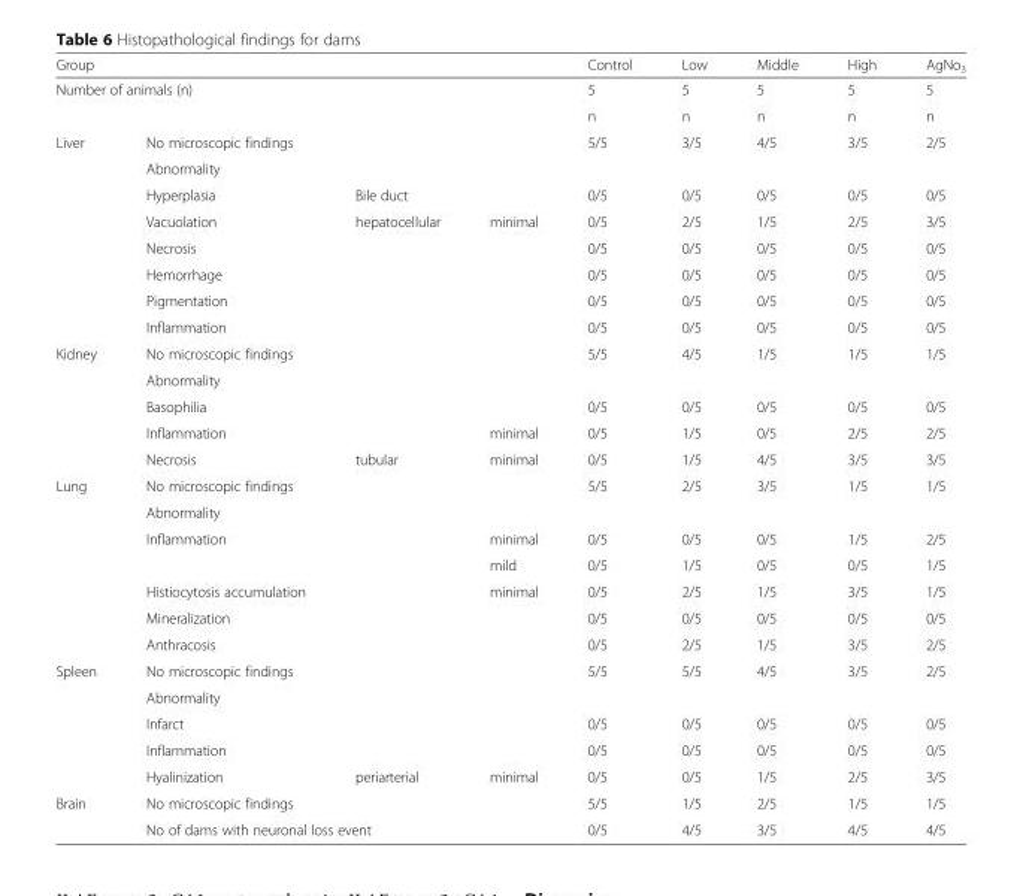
<table><thead><tr><td colspan="4">Group</td><td>Control</td><td>Low</td><td>Middle</td><td>High</td><td>AgNo<sub>3</sub></td></tr></thead><tbody><tr><td rowspan="2" colspan="4">Number of animals (n)</td><td>5</td><td>5</td><td>5</td><td>5</td><td>5</td></tr><tr><td>n</td><td>n</td><td>n</td><td>n</td><td>n</td></tr><tr><td rowspan="8">Liver</td><td colspan="3">No microscopic findings</td><td>5/5</td><td>3/5</td><td>4/5</td><td>3/5</td><td>2/5</td></tr><tr><td colspan="3">Abnormality</td><td></td><td></td><td></td><td></td><td></td></tr><tr><td>Hyperplasia</td><td>Bile duct</td><td></td><td>0/5</td><td>0/5</td><td>0/5</td><td>0/5</td><td>0/5</td></tr><tr><td>Vacuolation</td><td>hepatocellular</td><td>minimal</td><td>0/5</td><td>2/5</td><td>1/5</td><td>2/5</td><td>3/5</td></tr><tr><td>Necrosis</td><td colspan="2"></td><td>0/5</td><td>0/5</td><td>0/5</td><td>0/5</td><td>0/5</td></tr><tr><td>Hemorrhage</td><td></td><td></td><td>0/5</td><td>0/5</td><td>0/5</td><td>0/5</td><td>0/5</td></tr><tr><td>Pigmentation</td><td></td><td></td><td>0/5</td><td>0/5</td><td>0/5</td><td>0/5</td><td>0/5</td></tr><tr><td>Inflammation</td><td></td><td></td><td>0/5</td><td>0/5</td><td>0/5</td><td>0/5</td><td>0/5</td></tr><tr><td rowspan="5">Kidney</td><td colspan="3">No microscopic findings</td><td>5/5</td><td>4/5</td><td>1/5</td><td>1/5</td><td>1/5</td></tr><tr><td colspan="3">Abnormality</td><td></td><td></td><td></td><td></td><td></td></tr><tr><td>Basophilia</td><td></td><td></td><td>0/5</td><td>0/5</td><td>0/5</td><td>0/5</td><td>0/5</td></tr><tr><td>Inflammation</td><td></td><td>minimal</td><td>0/5</td><td>1/5</td><td>0/5</td><td>2/5</td><td>2/5</td></tr><tr><td>Necrosis</td><td>tubular</td><td>minimal</td><td>0/5</td><td>1/5</td><td>4/5</td><td>3/5</td><td>3/5</td></tr><tr><td rowspan="7">Lung</td><td colspan="3">No microscopic findings</td><td>5/5</td><td>2/5</td><td>3/5</td><td>1/5</td><td>1/5</td></tr><tr><td colspan="3">Abnormality</td><td></td><td></td><td></td><td></td><td></td></tr><tr><td rowspan="2">Inflammation</td><td rowspan="2"></td><td>minimal</td><td>0/5</td><td>0/5</td><td>0/5</td><td>1/5</td><td>2/5</td></tr><tr><td>mild</td><td>0/5</td><td>1/5</td><td>0/5</td><td>0/5</td><td>1/5</td></tr><tr><td>Histiocytosis accumulation</td><td></td><td>minimal</td><td>0/5</td><td>2/5</td><td>1/5</td><td>3/5</td><td>1/5</td></tr><tr><td>Mineralization</td><td></td><td></td><td>0/5</td><td>0/5</td><td>0/5</td><td>0/5</td><td>0/5</td></tr><tr><td>Anthracosis</td><td></td><td></td><td>0/5</td><td>2/5</td><td>1/5</td><td>3/5</td><td>2/5</td></tr><tr><td rowspan="5">Spleen</td><td colspan="3">No microscopic findings</td><td>5/5</td><td>5/5</td><td>4/5</td><td>3/5</td><td>2/5</td></tr><tr><td colspan="3">Abnormality</td><td></td><td></td><td></td><td></td><td></td></tr><tr><td>Infarct</td><td></td><td></td><td>0/5</td><td>0/5</td><td>0/5</td><td>0/5</td><td>0/5</td></tr><tr><td>Inflammation</td><td></td><td></td><td>0/5</td><td>0/5</td><td>0/5</td><td>0/5</td><td>0/5</td></tr><tr><td>Hyalinization</td><td>periarterial</td><td>minimal</td><td>0/5</td><td>0/5</td><td>1/5</td><td>2/5</td><td>3/5</td></tr><tr><td rowspan="2">Brain</td><td colspan="3">No microscopic findings</td><td>5/5</td><td>1/5</td><td>2/5</td><td>1/5</td><td>1/5</td></tr><tr><td colspan="3">No of dams with neuronal loss event</td><td>0/5</td><td>4/5</td><td>3/5</td><td>4/5</td><td>4/5</td></tr></tbody></table>